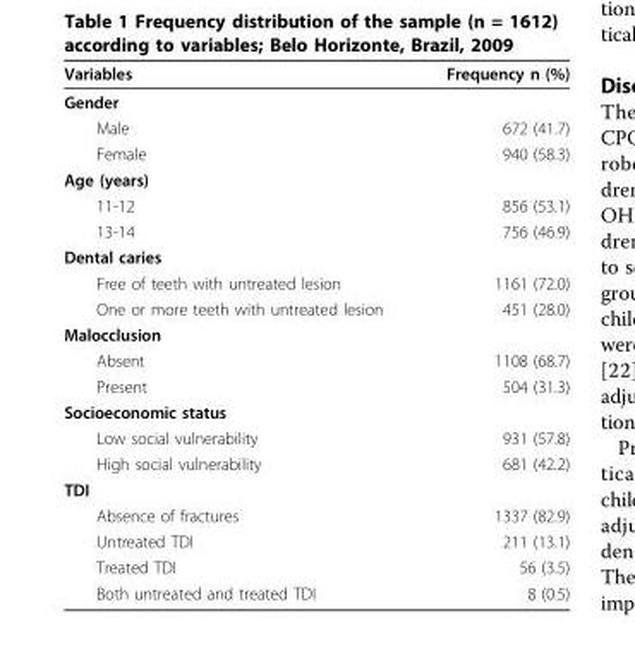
<table><thead><tr><td>Variables</td><td>Frequency n (%)</td></tr></thead><tbody><tr><td colspan="2">Gender</td></tr><tr><td>Male</td><td>672 (41.7)</td></tr><tr><td>Female</td><td>940 (58.3)</td></tr><tr><td colspan="2">Age (years)</td></tr><tr><td>11-12</td><td>856 (53.1)</td></tr><tr><td>13-14</td><td>756 (46.9)</td></tr><tr><td colspan="2">Dental caries</td></tr><tr><td>Free of teeth with untreated lesion</td><td>1161 (72.0)</td></tr><tr><td>One or more teeth with untreated lesion</td><td>451 (28.0)</td></tr><tr><td colspan="2">Malocclusion</td></tr><tr><td>Absent</td><td>1108 (68.7)</td></tr><tr><td>Present</td><td>504 (31.3)</td></tr><tr><td colspan="2">Socioeconomic status</td></tr><tr><td>Low social vulnerability</td><td>931 (57.8)</td></tr><tr><td>High social vulnerability</td><td>681 (42.2)</td></tr><tr><td colspan="2">TDI</td></tr><tr><td>Absence of fractures</td><td>1337 (82.9)</td></tr><tr><td>Untreated TDI</td><td>211 (13.1)</td></tr><tr><td>Treated TDI</td><td>56 (3.5)</td></tr><tr><td>Both untreated and treated TDI</td><td>8 (0.5)</td></tr></tbody></table>